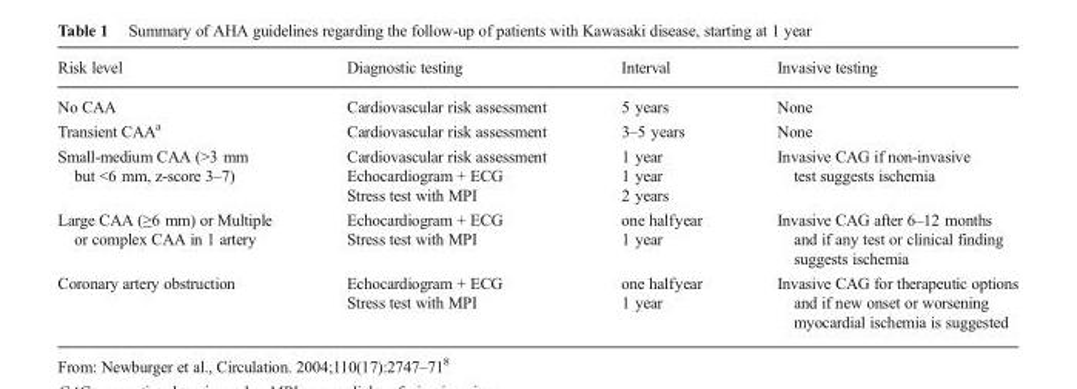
<table><thead><tr><td>Risk level</td><td>Diagnostic testing</td><td>Interval</td><td>Invasive testing</td></tr></thead><tbody><tr><td>No CAA</td><td>Cardiovascular risk assessment</td><td>5 years</td><td>None</td></tr><tr><td>Transient CAA<sup>a</sup></td><td>Cardiovascular risk assessment</td><td>3–5 years</td><td>None</td></tr><tr><td rowspan="2">Small-medium CAA (&gt;3 mm but &lt;6 mm, z-score 3–7)</td><td>Cardiovascular risk assessment Echocardiogram + ECG</td><td>1 year 1 year</td><td rowspan="2">Invasive CAG if non-invasive test suggests ischemia</td></tr><tr><td>Stress test with MPI</td><td>2 years</td></tr><tr><td rowspan="2">Large CAA (≥6 mm) or Multiple or complex CAA in 1 artery</td><td>Echocardiogram + ECG</td><td>one halfyear</td><td rowspan="2">Invasive CAG after 6–12 months and if any test or clinical finding suggests ischemia</td></tr><tr><td>Stress test with MPI</td><td>1 year</td></tr><tr><td rowspan="2">Coronary artery obstruction</td><td>Echocardiogram + ECG</td><td>one halfyear</td><td rowspan="2">Invasive CAG for therapeutic options and if new onset or worsening myocardial ischemia is suggested</td></tr><tr><td>Stress test with MPI</td><td>1 year</td></tr></tbody></table>